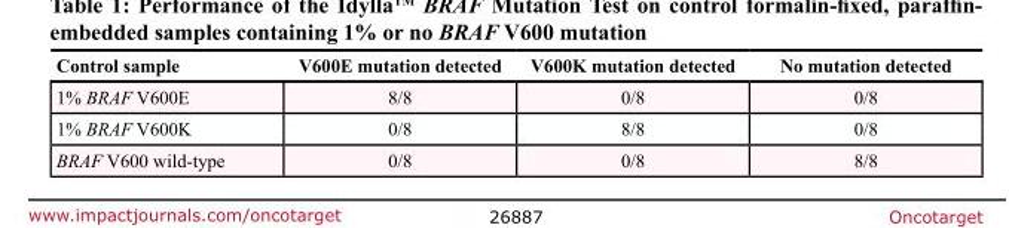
<table><thead><tr><td>Control sample</td><td>V600E mutation detected</td><td>V600K mutation detected</td><td>No mutation detected</td></tr></thead><tbody><tr><td>1% BRAF V600E</td><td>8/8</td><td>0/8</td><td>0/8</td></tr><tr><td>1% BRAF V600K</td><td>0/8</td><td>8/8</td><td>0/8</td></tr><tr><td>BRAF V600 wild-type</td><td>0/8</td><td>0/8</td><td>8/8</td></tr></tbody></table>